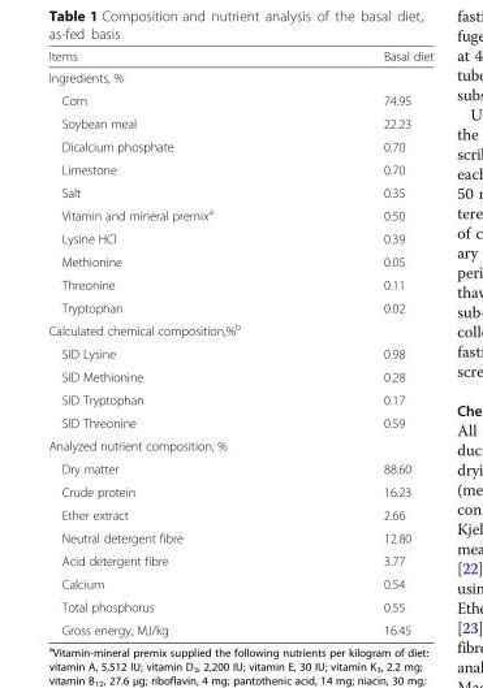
<table><thead><tr><td>Items</td><td>Basal diet</td></tr></thead><tbody><tr><td colspan="2">Ingredients, %</td></tr><tr><td>Corn</td><td>74.95</td></tr><tr><td>Soybean meal</td><td>22.23</td></tr><tr><td>Dicalcium phosphate</td><td>0.70</td></tr><tr><td>Limestone</td><td>0.70</td></tr><tr><td>Salt</td><td>0.35</td></tr><tr><td>Vitamin and mineral premix<sup>a</sup></td><td>0.50</td></tr><tr><td>Lysine HCl</td><td>0.39</td></tr><tr><td>Methionine</td><td>0.05</td></tr><tr><td>Threonine</td><td>0.11</td></tr><tr><td>Tryptophan</td><td>0.02</td></tr><tr><td colspan="2">Calculated chemical composition,%<sup>b</sup></td></tr><tr><td>SID Lysine</td><td>0.98</td></tr><tr><td>SID Methionine</td><td>0.28</td></tr><tr><td>SID Tryptophan</td><td>0.17</td></tr><tr><td>SID Threonine</td><td>0.59</td></tr><tr><td colspan="2">Analyzed nutrient composition, %</td></tr><tr><td>Dry matter</td><td>88.60</td></tr><tr><td>Crude protein</td><td>16.23</td></tr><tr><td>Ether extract</td><td>2.66</td></tr><tr><td>Neutral detergent fibre</td><td>12.80</td></tr><tr><td>Acid detergent fibre</td><td>3.77</td></tr><tr><td>Calcium</td><td>0.54</td></tr><tr><td>Total phosphorus</td><td>0.55</td></tr><tr><td>Gross energy, MJ/kg</td><td>16.45</td></tr></tbody></table>